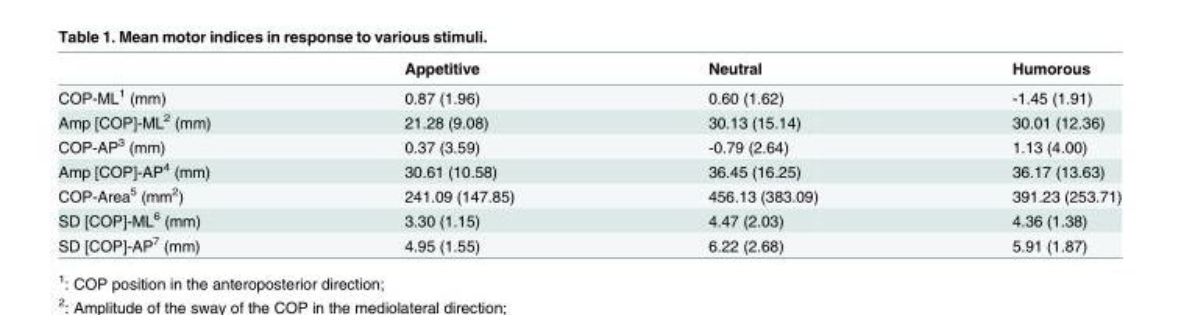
<table><thead><tr><td></td><td>Appetitive</td><td>Neutral</td><td>Humorous</td></tr></thead><tbody><tr><td>COP-ML<sup>1</sup> (mm)</td><td>0.87 (1.96)</td><td>0.60 (1.62)</td><td>-1.45 (1.91)</td></tr><tr><td>Amp [COP]-ML<sup>2</sup> (mm)</td><td>21.28 (9.08)</td><td>30.13 (15.14)</td><td>30.01 (12.36)</td></tr><tr><td>COP-AP<sup>3</sup> (mm)</td><td>0.37 (3.59)</td><td>-0.79 (2.64)</td><td>1.13 (4.00)</td></tr><tr><td>Amp [COP]-AP<sup>4</sup> (mm)</td><td>30.61 (10.58)</td><td>36.45 (16.25)</td><td>36.17 (13.63)</td></tr><tr><td>COP-Area<sup>5</sup> (mm<sup>2</sup>)</td><td>241.09 (147.85)</td><td>456.13 (383.09)</td><td>391.23 (253.71)</td></tr><tr><td>SD [COP]-ML<sup>6</sup> (mm)</td><td>3.30 (1.15)</td><td>4.47 (2.03)</td><td>4.36 (1.38)</td></tr><tr><td>SD [COP]-AP<sup>7</sup> (mm)</td><td>4.95 (1.55)</td><td>6.22 (2.68)</td><td>5.91 (1.87)</td></tr></tbody></table>